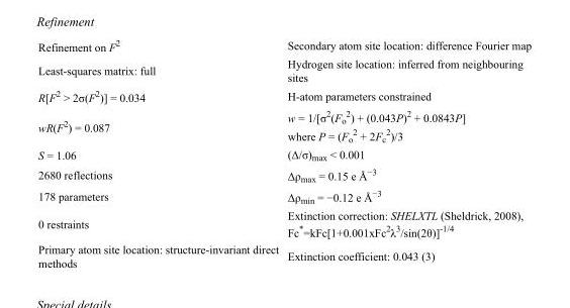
<table><tbody><tr><td>Refinement on F<sup>2</sup></td><td>Secondary atom site location: difference Fourier map</td></tr><tr><td>Least-squares matrix: full</td><td>Hydrogen site location: inferred from neighbouring sites</td></tr><tr><td>R[F<sup>2</sup> &gt; 2σ(F<sup>2</sup>)] = 0.034</td><td>H-atom parameters constrained</td></tr><tr><td>wR(F<sup>2</sup>) = 0.087</td><td>w = 1/[σ<sup>2</sup>(F<sub>o</sub> <sup>2</sup>) + (0.043P)<sup>2</sup> + 0.0843P] where P = (F<sub>o</sub> <sup>2</sup> + 2F<sub>c</sub> <sup>2</sup>)/3</td></tr><tr><td>S = 1.06</td><td>(Δ/σ)<sub>max</sub> &lt; 0.001</td></tr><tr><td>2680 reflections</td><td>Δρ<sub>max</sub> = 0.15 e Å<sup>−3</sup></td></tr><tr><td>178 parameters</td><td>Δρ<sub>min</sub> = −0.12 e Å<sup>−3</sup></td></tr><tr><td>0 restraints</td><td>Extinction correction: SHELXTL (Sheldrick, 2008), Fc*=kFc[1+0.001xFc<sup>2</sup>λ<sup>3</sup>/sin(2θ)]<sup>-1/4</sup></td></tr><tr><td>Primary atom site location: structure-invariant direct methods</td><td>Extinction coefficient: 0.043 (3)</td></tr></tbody></table>